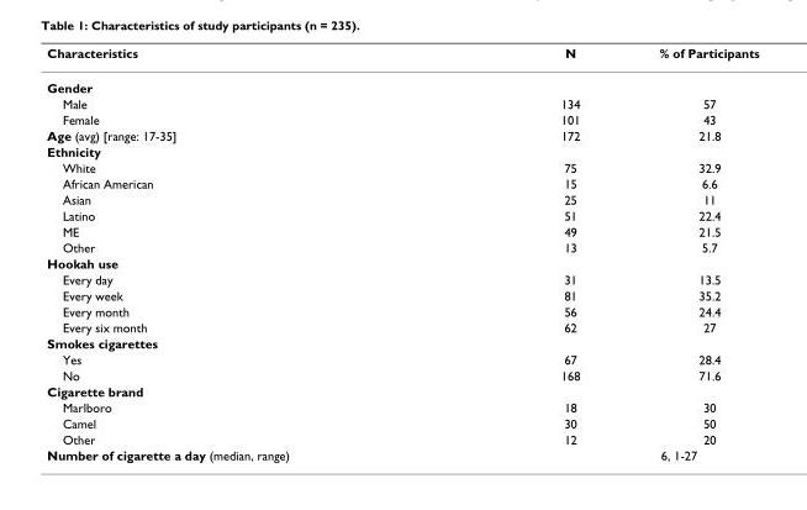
<table><thead><tr><td>Characteristics</td><td>N</td><td>% of Participants</td></tr></thead><tbody><tr><td colspan="3">Gender</td></tr><tr><td>Male</td><td>134</td><td>57</td></tr><tr><td>Female</td><td>101</td><td>43</td></tr><tr><td>Age (avg) [range: 17-35]</td><td>172</td><td>21.8</td></tr><tr><td colspan="3">Ethnicity</td></tr><tr><td>White</td><td>75</td><td>32.9</td></tr><tr><td>African American</td><td>15</td><td>6.6</td></tr><tr><td>Asian</td><td>25</td><td>11</td></tr><tr><td>Latino</td><td>51</td><td>22.4</td></tr><tr><td>ME</td><td>49</td><td>21.5</td></tr><tr><td>Other</td><td>13</td><td>5.7</td></tr><tr><td colspan="3">Hookah use</td></tr><tr><td>Every day</td><td>31</td><td>13.5</td></tr><tr><td>Every week</td><td>81</td><td>35.2</td></tr><tr><td>Every month</td><td>56</td><td>24.4</td></tr><tr><td>Every six month</td><td>62</td><td>27</td></tr><tr><td colspan="3">Smokes cigarettes</td></tr><tr><td>Yes</td><td>67</td><td>28.4</td></tr><tr><td>No</td><td>168</td><td>71.6</td></tr><tr><td colspan="3">Cigarette brand</td></tr><tr><td>Marlboro</td><td>18</td><td>30</td></tr><tr><td>Camel</td><td>30</td><td>50</td></tr><tr><td>Other</td><td>12</td><td>20</td></tr><tr><td>Number of cigarette a day (median, range)</td><td colspan="2">6, 1-27</td></tr></tbody></table>